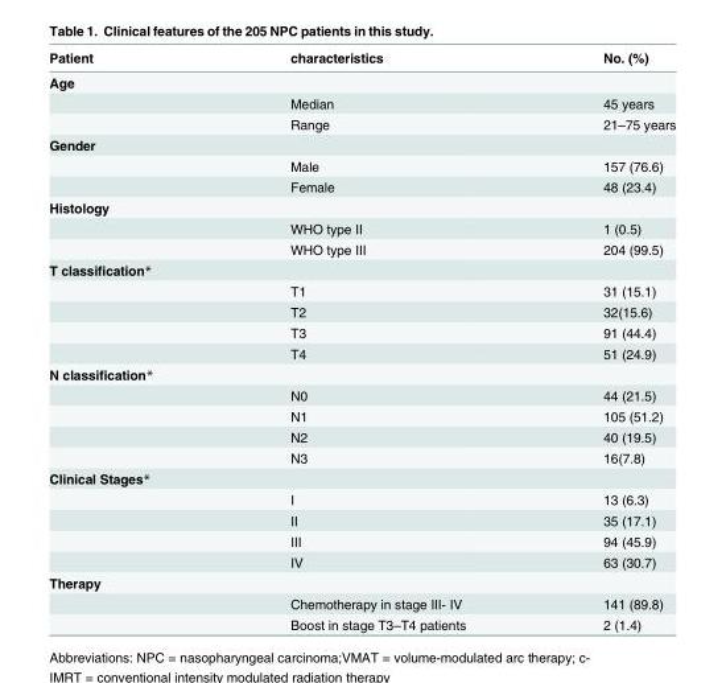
<table><thead><tr><td>Patient</td><td>characteristics</td><td>No. (%)</td></tr></thead><tbody><tr><td colspan="3">Age</td></tr><tr><td></td><td>Median</td><td>45 years</td></tr><tr><td></td><td>Range</td><td>21–75 years</td></tr><tr><td colspan="3">Gender</td></tr><tr><td></td><td>Male</td><td>157 (76.6)</td></tr><tr><td></td><td>Female</td><td>48 (23.4)</td></tr><tr><td colspan="3">Histology</td></tr><tr><td></td><td>WHO type II</td><td>1 (0.5)</td></tr><tr><td></td><td>WHO type III</td><td>204 (99.5)</td></tr><tr><td colspan="3">T classification*</td></tr><tr><td></td><td>T1</td><td>31 (15.1)</td></tr><tr><td></td><td>T2</td><td>32(15.6)</td></tr><tr><td></td><td>T3</td><td>91 (44.4)</td></tr><tr><td></td><td>T4</td><td>51 (24.9)</td></tr><tr><td colspan="3">N classification*</td></tr><tr><td></td><td>N0</td><td>44 (21.5)</td></tr><tr><td></td><td>N1</td><td>105 (51.2)</td></tr><tr><td></td><td>N2</td><td>40 (19.5)</td></tr><tr><td></td><td>N3</td><td>16(7.8)</td></tr><tr><td colspan="3">Clinical Stages*</td></tr><tr><td></td><td>I</td><td>13 (6.3)</td></tr><tr><td></td><td>II</td><td>35 (17.1)</td></tr><tr><td></td><td>III</td><td>94 (45.9)</td></tr><tr><td></td><td>IV</td><td>63 (30.7)</td></tr><tr><td colspan="3">Therapy</td></tr><tr><td></td><td>Chemotherapy in stage III- IV</td><td>141 (89.8)</td></tr><tr><td></td><td>Boost in stage T3–T4 patients</td><td>2 (1.4)</td></tr></tbody></table>